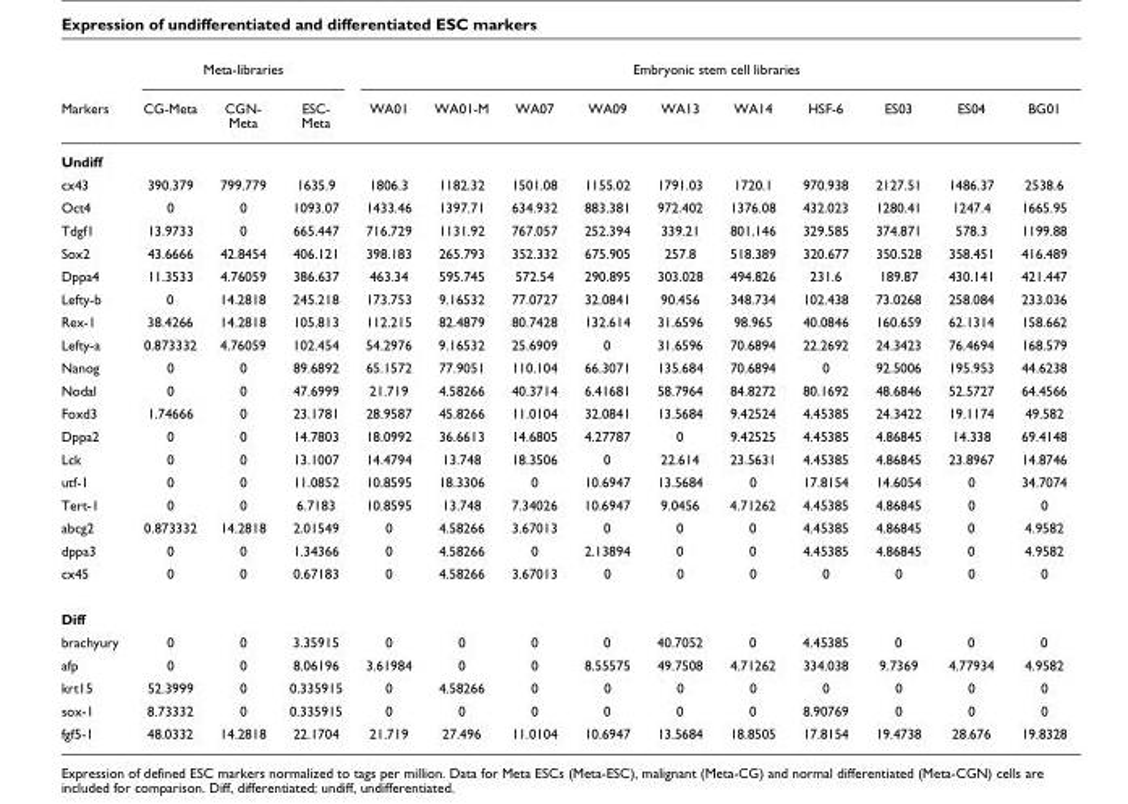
<table><thead><tr><td rowspan="2">Markers</td><td colspan="3">Meta-libraries</td><td colspan="10">Embryonic stem cell libraries</td></tr><tr><td>CG-Meta</td><td>CGN- Meta</td><td>ESC- Meta</td><td>WA01</td><td>WA01-M</td><td>WA07</td><td>WA09</td><td>WA13</td><td>WA14</td><td>HSF-6</td><td>ES03</td><td>ES04</td><td>BG01</td></tr></thead><tbody><tr><td colspan="14">Undiff</td></tr><tr><td>cx43</td><td>390.379</td><td>799.779</td><td>1635.9</td><td>1806.3</td><td>1182.32</td><td>1501.08</td><td>1155.02</td><td>1791.03</td><td>1720.1</td><td>970.938</td><td>2127.51</td><td>1486.37</td><td>2538.6</td></tr><tr><td>Oct4</td><td>0</td><td>0</td><td>1093.07</td><td>1433.46</td><td>1397.71</td><td>634.932</td><td>883.381</td><td>972.402</td><td>1376.08</td><td>432.023</td><td>1280.41</td><td>1247.4</td><td>1665.95</td></tr><tr><td>Tdgf1</td><td>13.9733</td><td>0</td><td>665.447</td><td>716.729</td><td>1131.92</td><td>767.057</td><td>252.394</td><td>339.21</td><td>801.146</td><td>329.585</td><td>374.871</td><td>578.3</td><td>1199.88</td></tr><tr><td>Sox2</td><td>43.6666</td><td>42.8454</td><td>406.121</td><td>398.183</td><td>265.793</td><td>352.332</td><td>675.905</td><td>257.8</td><td>518.389</td><td>320.677</td><td>350.528</td><td>358.451</td><td>416.489</td></tr><tr><td>Dppa4</td><td>11.3533</td><td>4.76059</td><td>386.637</td><td>463.34</td><td>595.745</td><td>572.54</td><td>290.895</td><td>303.028</td><td>494.826</td><td>231.6</td><td>189.87</td><td>430.141</td><td>421.447</td></tr><tr><td>Lefty-b</td><td>0</td><td>14.2818</td><td>245.218</td><td>173.753</td><td>9.16532</td><td>77.0727</td><td>32.0841</td><td>90.456</td><td>348.734</td><td>102.438</td><td>73.0268</td><td>258.084</td><td>233.036</td></tr><tr><td>Rex-1</td><td>38.4266</td><td>14.2818</td><td>105.813</td><td>112.215</td><td>82.4879</td><td>80.7428</td><td>132.614</td><td>31.6596</td><td>98.965</td><td>40.0846</td><td>160.659</td><td>62.1314</td><td>158.662</td></tr><tr><td>Lefty-a</td><td>0.873332</td><td>4.76059</td><td>102.454</td><td>54.2976</td><td>9.16532</td><td>25.6909</td><td>0</td><td>31.6596</td><td>70.6894</td><td>22.2692</td><td>24.3423</td><td>76.4694</td><td>168.579</td></tr><tr><td>Nanog</td><td>0</td><td>0</td><td>89.6892</td><td>65.1572</td><td>77.9051</td><td>110.104</td><td>66.3071</td><td>135.684</td><td>70.6894</td><td>0</td><td>92.5006</td><td>195.953</td><td>44.6238</td></tr><tr><td>Nodal</td><td>0</td><td>0</td><td>47.6999</td><td>21.719</td><td>4.58266</td><td>40.3714</td><td>6.41681</td><td>58.7964</td><td>84.8272</td><td>80.1692</td><td>48.6846</td><td>52.5727</td><td>64.4566</td></tr><tr><td>Foxd3</td><td>1.74666</td><td>0</td><td>23.1781</td><td>28.9587</td><td>45.8266</td><td>11.0104</td><td>32.0841</td><td>13.5684</td><td>9.42524</td><td>4.45385</td><td>24.3422</td><td>19.1174</td><td>49.582</td></tr><tr><td>Dppa2</td><td>0</td><td>0</td><td>14.7803</td><td>18.0992</td><td>36.6613</td><td>14.6805</td><td>4.27787</td><td>0</td><td>9.42525</td><td>4.45385</td><td>4.86845</td><td>14.338</td><td>69.4148</td></tr><tr><td>Lck</td><td>0</td><td>0</td><td>13.1007</td><td>14.4794</td><td>13.748</td><td>18.3506</td><td>0</td><td>22.614</td><td>23.5631</td><td>4.45385</td><td>4.86845</td><td>23.8967</td><td>14.8746</td></tr><tr><td>utf-1</td><td>0</td><td>0</td><td>11.0852</td><td>10.8595</td><td>18.3306</td><td>0</td><td>10.6947</td><td>13.5684</td><td>0</td><td>17.8154</td><td>14.6054</td><td>0</td><td>34.7074</td></tr><tr><td>Tert-1</td><td>0</td><td>0</td><td>6.7183</td><td>10.8595</td><td>13.748</td><td>7.34026</td><td>10.6947</td><td>9.0456</td><td>4.71262</td><td>4.45385</td><td>4.86845</td><td>0</td><td>0</td></tr><tr><td>abcg2</td><td>0.873332</td><td>14.2818</td><td>2.01549</td><td>0</td><td>4.58266</td><td>3.67013</td><td>0</td><td>0</td><td>0</td><td>4.45385</td><td>4.86845</td><td>0</td><td>4.9582</td></tr><tr><td>dppa3</td><td>0</td><td>0</td><td>1.34366</td><td>0</td><td>4.58266</td><td>0</td><td>2.13894</td><td>0</td><td>0</td><td>4.45385</td><td>4.86845</td><td>0</td><td>4.9582</td></tr><tr><td>cx45</td><td>0</td><td>0</td><td>0.67183</td><td>0</td><td>4.58266</td><td>3.67013</td><td>0</td><td>0</td><td>0</td><td>0</td><td>0</td><td>0</td><td>0</td></tr><tr><td colspan="14">Diff</td></tr><tr><td>brachyury</td><td>0</td><td>0</td><td>3.35915</td><td>0</td><td>0</td><td>0</td><td>0</td><td>40.7052</td><td>0</td><td>4.45385</td><td>0</td><td>0</td><td>0</td></tr><tr><td>afp</td><td>0</td><td>0</td><td>8.06196</td><td>3.61984</td><td>0</td><td>0</td><td>8.55575</td><td>49.7508</td><td>4.71262</td><td>334.038</td><td>9.7369</td><td>4.77934</td><td>4.9582</td></tr><tr><td>krt15</td><td>52.3999</td><td>0</td><td>0.335915</td><td>0</td><td>4.58266</td><td>0</td><td>0</td><td>0</td><td>0</td><td>0</td><td>0</td><td>0</td><td>0</td></tr><tr><td>sox-1</td><td>8.73332</td><td>0</td><td>0.335915</td><td>0</td><td>0</td><td>0</td><td>0</td><td>0</td><td>0</td><td>8.90769</td><td>0</td><td>0</td><td>0</td></tr><tr><td>fgf5-1</td><td>48.0332</td><td>14.2818</td><td>22.1704</td><td>21.719</td><td>27.496</td><td>11.0104</td><td>10.6947</td><td>13.5684</td><td>18.8505</td><td>17.8154</td><td>19.4738</td><td>28.676</td><td>19.8328</td></tr></tbody></table>